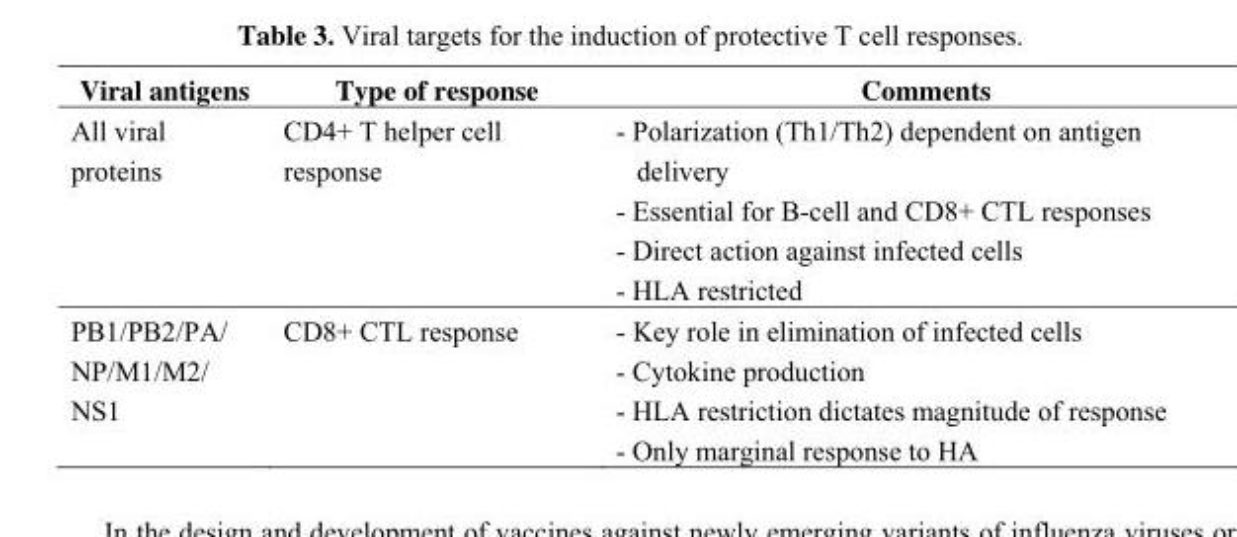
<table><thead><tr><td>Viral antigens</td><td>Type of response</td><td>Comments</td></tr></thead><tbody><tr><td>All viral proteins</td><td>CD4+ T helper cell response</td><td>- Polarization (Th1/Th2) dependent on antigen delivery - Essential for B-cell and CD8+ CTL responses - Direct action against infected cells - HLA restricted</td></tr><tr><td>PB1/PB2/PA/ NP/M1/M2/ NS1</td><td>CD8+ CTL response</td><td>- Key role in elimination of infected cells - Cytokine production - HLA restriction dictates magnitude of response - Only marginal response to HA</td></tr></tbody></table>